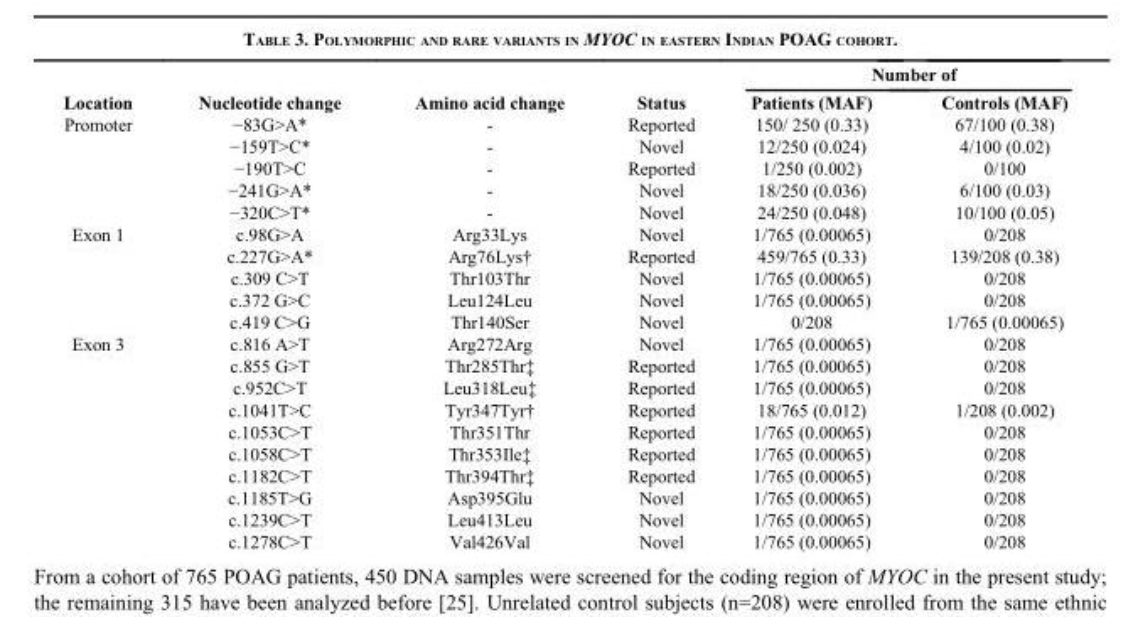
<table><thead><tr><td rowspan="2">Location</td><td rowspan="2">Nucleotide change</td><td rowspan="2">Amino acid change</td><td rowspan="2">Status</td><td colspan="2">Number of</td></tr><tr><td>Patients (MAF)</td><td>Controls (MAF)</td></tr></thead><tbody><tr><td rowspan="5">Promoter</td><td>−83G&gt;A*</td><td>-</td><td>Reported</td><td>150/ 250 (0.33)</td><td>67/100 (0.38)</td></tr><tr><td>−159T&gt;C*</td><td>-</td><td>Novel</td><td>12/250 (0.024)</td><td>4/100 (0.02)</td></tr><tr><td>−190T&gt;C</td><td>-</td><td>Reported</td><td>1/250 (0.002)</td><td>0/100</td></tr><tr><td>−241G&gt;A*</td><td>-</td><td>Novel</td><td>18/250 (0.036)</td><td>6/100 (0.03)</td></tr><tr><td>−320C&gt;T*</td><td>-</td><td>Novel</td><td>24/250 (0.048)</td><td>10/100 (0.05)</td></tr><tr><td rowspan="5">Exon 1</td><td>c.98G&gt;A</td><td>Arg33Lys</td><td>Novel</td><td>1/765 (0.00065)</td><td>0/208</td></tr><tr><td>c.227G&gt;A*</td><td>Arg76Lys†</td><td>Reported</td><td>459/765 (0.33)</td><td>139/208 (0.38)</td></tr><tr><td>c.309 C&gt;T</td><td>Thr103Thr</td><td>Novel</td><td>1/765 (0.00065)</td><td>0/208</td></tr><tr><td>c.372 G&gt;C</td><td>Leu124Leu</td><td>Novel</td><td>1/765 (0.00065)</td><td>0/208</td></tr><tr><td>c.419 C&gt;G</td><td>Thr140Ser</td><td>Novel</td><td>0/208</td><td>1/765 (0.00065)</td></tr><tr><td rowspan="10">Exon 3</td><td>c.816 A&gt;T</td><td>Arg272Arg</td><td>Novel</td><td>1/765 (0.00065)</td><td>0/208</td></tr><tr><td>c.855 G&gt;T</td><td>Thr285Thr‡</td><td>Reported</td><td>1/765 (0.00065)</td><td>0/208</td></tr><tr><td>c.952C&gt;T</td><td>Leu318Leu‡</td><td>Reported</td><td>1/765 (0.00065)</td><td>0/208</td></tr><tr><td>c.1041T&gt;C</td><td>Tyr347Tyr†</td><td>Reported</td><td>18/765 (0.012)</td><td>1/208 (0.002)</td></tr><tr><td>c.1053C&gt;T</td><td>Thr351Thr</td><td>Reported</td><td>1/765 (0.00065)</td><td>0/208</td></tr><tr><td>c.1058C&gt;T</td><td>Thr353Ile‡</td><td>Reported</td><td>1/765 (0.00065)</td><td>0/208</td></tr><tr><td>c.1182C&gt;T</td><td>Thr394Thr‡</td><td>Reported</td><td>1/765 (0.00065)</td><td>0/208</td></tr><tr><td>c.1185T&gt;G</td><td>Asp395Glu</td><td>Novel</td><td>1/765 (0.00065)</td><td>0/208</td></tr><tr><td>c.1239C&gt;T</td><td>Leu413Leu</td><td>Novel</td><td>1/765 (0.00065)</td><td>0/208</td></tr><tr><td>c.1278C&gt;T</td><td>Val426Val</td><td>Novel</td><td>1/765 (0.00065)</td><td>0/208</td></tr></tbody></table>